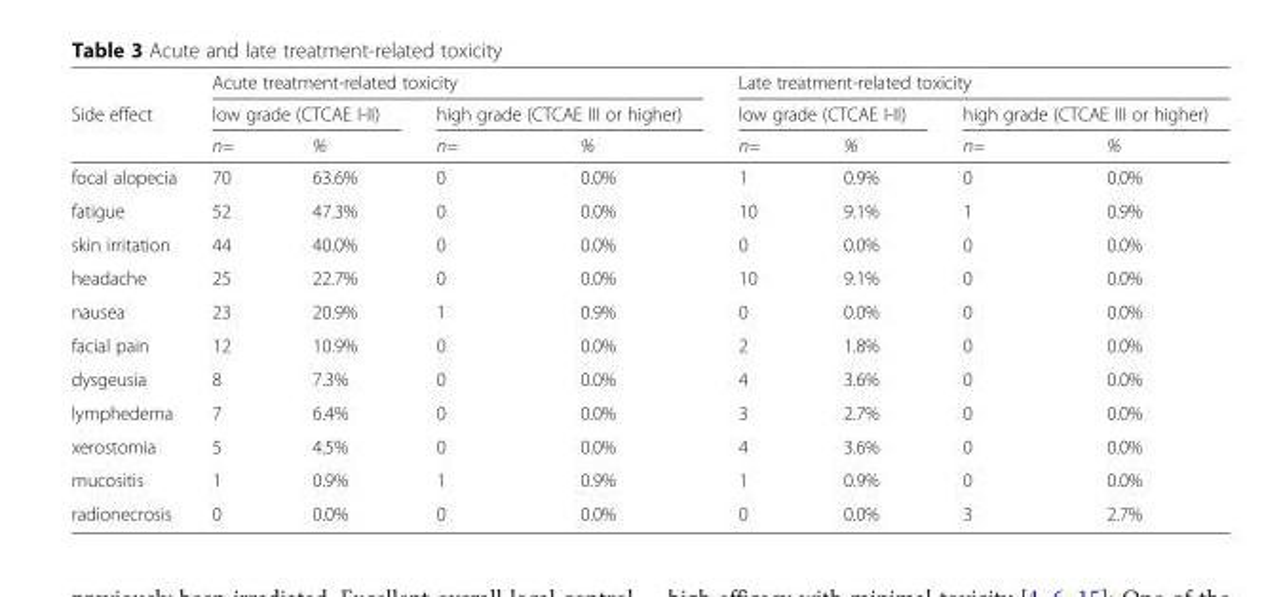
<table><thead><tr><td rowspan="3">Side effect</td><td colspan="4">Acute treatment-related toxicity</td><td colspan="4">Late treatment-related toxicity</td></tr><tr><td colspan="2">low grade (CTCAE I-II)</td><td colspan="2">high grade (CTCAE III or higher)</td><td colspan="2">low grade (CTCAE I-II)</td><td colspan="2">high grade (CTCAE III or higher)</td></tr><tr><td>n=</td><td>%</td><td>n=</td><td>%</td><td>n=</td><td>%</td><td>n=</td><td>%</td></tr></thead><tbody><tr><td>focal alopecia</td><td>70</td><td>63.6%</td><td>0</td><td>0.0%</td><td>1</td><td>0.9%</td><td>0</td><td>0.0%</td></tr><tr><td>fatigue</td><td>52</td><td>47.3%</td><td>0</td><td>0.0%</td><td>10</td><td>9.1%</td><td>1</td><td>0.9%</td></tr><tr><td>skin irritation</td><td>44</td><td>40.0%</td><td>0</td><td>0.0%</td><td>0</td><td>0.0%</td><td>0</td><td>0.0%</td></tr><tr><td>headache</td><td>25</td><td>22.7%</td><td>0</td><td>0.0%</td><td>10</td><td>9.1%</td><td>0</td><td>0.0%</td></tr><tr><td>nausea</td><td>23</td><td>20.9%</td><td>1</td><td>0.9%</td><td>0</td><td>0.0%</td><td>0</td><td>0.0%</td></tr><tr><td>facial pain</td><td>12</td><td>10.9%</td><td>0</td><td>0.0%</td><td>2</td><td>1.8%</td><td>0</td><td>0.0%</td></tr><tr><td>dysgeusia</td><td>8</td><td>7.3%</td><td>0</td><td>0.0%</td><td>4</td><td>3.6%</td><td>0</td><td>0.0%</td></tr><tr><td>lymphedema</td><td>7</td><td>6.4%</td><td>0</td><td>0.0%</td><td>3</td><td>2.7%</td><td>0</td><td>0.0%</td></tr><tr><td>xerostomia</td><td>5</td><td>4.5%</td><td>0</td><td>0.0%</td><td>4</td><td>3.6%</td><td>0</td><td>0.0%</td></tr><tr><td>mucositis</td><td>1</td><td>0.9%</td><td>1</td><td>0.9%</td><td>1</td><td>0.9%</td><td>0</td><td>0.0%</td></tr><tr><td>radionecrosis</td><td>0</td><td>0.0%</td><td>0</td><td>0.0%</td><td>0</td><td>0.0%</td><td>3</td><td>2.7%</td></tr></tbody></table>